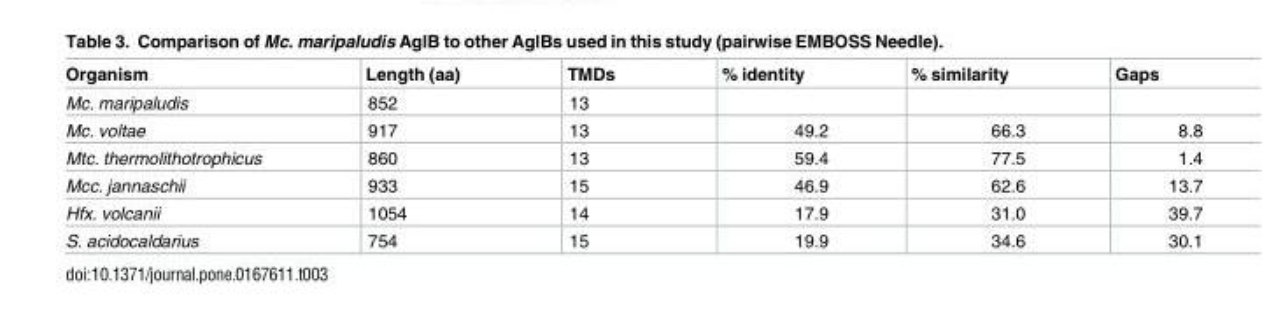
<table><thead><tr><td>Organism</td><td>Length (aa)</td><td>TMDs</td><td>% identity</td><td>% similarity</td><td>Gaps</td></tr></thead><tbody><tr><td>Mc. maripaludis</td><td>852</td><td>13</td><td></td><td></td><td></td></tr><tr><td>Mc. voltae</td><td>917</td><td>13</td><td>49.2</td><td>66.3</td><td>8.8</td></tr><tr><td>Mtc. thermolithotrophicus</td><td>860</td><td>13</td><td>59.4</td><td>77.5</td><td>1.4</td></tr><tr><td>Mcc. jannaschii</td><td>933</td><td>15</td><td>46.9</td><td>62.6</td><td>13.7</td></tr><tr><td>Hfx. volcanii</td><td>1054</td><td>14</td><td>17.9</td><td>31.0</td><td>39.7</td></tr><tr><td>S. acidocaldarius</td><td>754</td><td>15</td><td>19.9</td><td>34.6</td><td>30.1</td></tr></tbody></table>